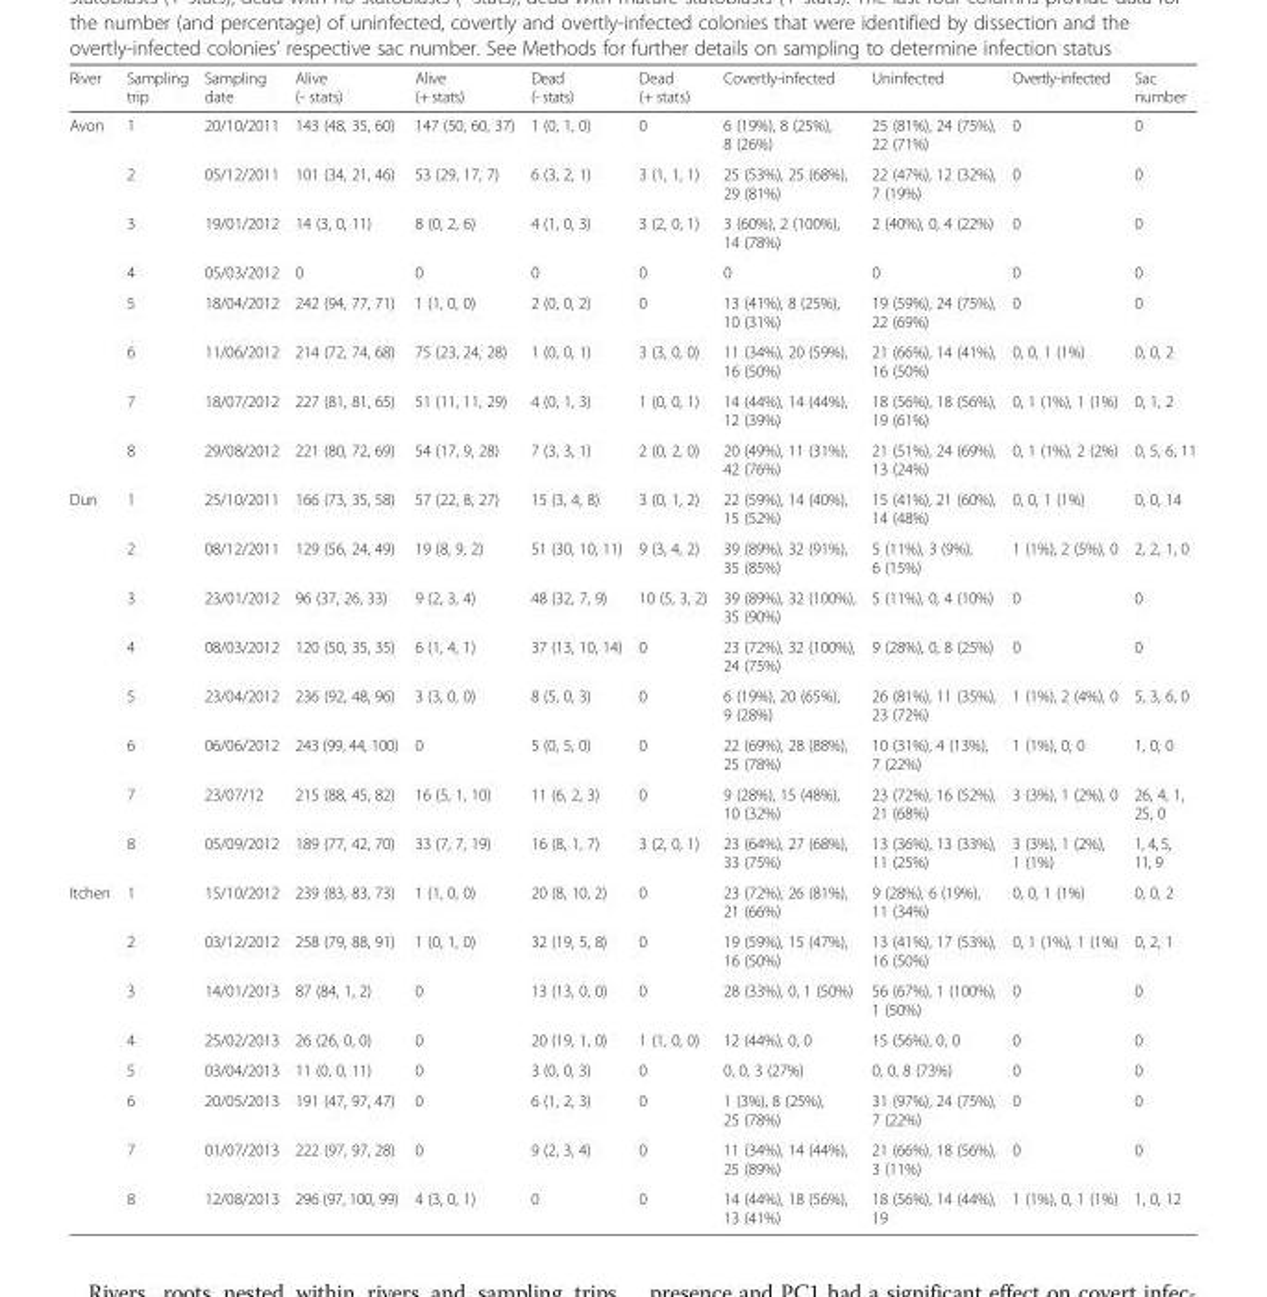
<table><thead><tr><td>River</td><td>Sampling trip</td><td>Sampling date</td><td>Alive (- stats)</td><td>Alive (+ stats)</td><td>Dead (- stats)</td><td>Dead (+ stats)</td><td>Covertly-infected</td><td>Uninfected</td><td>Overtly-infected</td><td>Sac number</td></tr></thead><tbody><tr><td rowspan="8">Avon</td><td>1</td><td>20/10/2011</td><td>143 (48, 35, 60)</td><td>147 (50, 60, 37)</td><td>1 (0, 1, 0)</td><td>0</td><td>6 (19%), 8 (25%), 8 (26%)</td><td>25 (81%), 24 (75%), 22 (71%)</td><td>0</td><td>0</td></tr><tr><td>2</td><td>05/12/2011</td><td>101 (34, 21, 46)</td><td>53 (29, 17, 7)</td><td>6 (3, 2, 1)</td><td>3 (1, 1, 1)</td><td>25 (53%), 25 (68%), 29 (81%)</td><td>22 (47%), 12 (32%), 7 (19%)</td><td>0</td><td>0</td></tr><tr><td>3</td><td>19/01/2012</td><td>14 (3, 0, 11)</td><td>8 (0, 2, 6)</td><td>4 (1, 0, 3)</td><td>3 (2, 0, 1)</td><td>3 (60%), 2 (100%), 14 (78%)</td><td>2 (40%), 0, 4 (22%)</td><td>0</td><td>0</td></tr><tr><td>4</td><td>05/03/2012</td><td>0</td><td>0</td><td>0</td><td>0</td><td>0</td><td>0</td><td>0</td><td>0</td></tr><tr><td>5</td><td>18/04/2012</td><td>242 (94, 77, 71)</td><td>1 (1, 0, 0)</td><td>2 (0, 0, 2)</td><td>0</td><td>13 (41%), 8 (25%), 10 (31%)</td><td>19 (59%), 24 (75%), 22 (69%)</td><td>0</td><td>0</td></tr><tr><td>6</td><td>11/06/2012</td><td>214 (72, 74, 68)</td><td>75 (23, 24, 28)</td><td>1 (0, 0, 1)</td><td>3 (3, 0, 0)</td><td>11 (34%), 20 (59%), 16 (50%)</td><td>21 (66%), 14 (41%), 16 (50%)</td><td>0, 0, 1 (1%)</td><td>0, 0, 2</td></tr><tr><td>7</td><td>18/07/2012</td><td>227 (81, 81, 65)</td><td>51 (11, 11, 29)</td><td>4 (0, 1, 3)</td><td>1 (0, 0, 1)</td><td>14 (44%), 14 (44%), 12 (39%)</td><td>18 (56%), 18 (56%), 19 (61%)</td><td>0, 1 (1%), 1 (1%)</td><td>0, 1, 2</td></tr><tr><td>8</td><td>29/08/2012</td><td>221 (80, 72, 69)</td><td>54 (17, 9, 28)</td><td>7 (3, 3, 1)</td><td>2 (0, 2, 0)</td><td>20 (49%), 11 (31%), 42 (76%)</td><td>21 (51%), 24 (69%), 13 (24%)</td><td>0, 1 (1%), 2 (2%)</td><td>0, 5, 6, 11</td></tr><tr><td rowspan="8">Dun</td><td>1</td><td>25/10/2011</td><td>166 (73, 35, 58)</td><td>57 (22, 8, 27)</td><td>15 (3, 4, 8)</td><td>3 (0, 1, 2)</td><td>22 (59%), 14 (40%), 15 (52%)</td><td>15 (41%), 21 (60%), 14 (48%)</td><td>0, 0, 1 (1%)</td><td>0, 0, 14</td></tr><tr><td>2</td><td>08/12/2011</td><td>129 (56, 24, 49)</td><td>19 (8, 9, 2)</td><td>51 (30, 10, 11)</td><td>9 (3, 4, 2)</td><td>39 (89%), 32 (91%), 35 (85%)</td><td>5 (11%), 3 (9%), 6 (15%)</td><td>1 (1%), 2 (5%), 0</td><td>2, 2, 1, 0</td></tr><tr><td>3</td><td>23/01/2012</td><td>96 (37, 26, 33)</td><td>9 (2, 3, 4)</td><td>48 (32, 7, 9)</td><td>10 (5, 3, 2)</td><td>39 (89%), 32 (100%), 35 (90%)</td><td>5 (11%), 0, 4 (10%)</td><td>0</td><td>0</td></tr><tr><td>4</td><td>08/03/2012</td><td>120 (50, 35, 35)</td><td>6 (1, 4, 1)</td><td>37 (13, 10, 14)</td><td>0</td><td>23 (72%), 32 (100%), 24 (75%)</td><td>9 (28%), 0, 8 (25%)</td><td>0</td><td>0</td></tr><tr><td>5</td><td>23/04/2012</td><td>236 (92, 48, 96)</td><td>3 (3, 0, 0)</td><td>8 (5, 0, 3)</td><td>0</td><td>6 (19%), 20 (65%), 9 (28%)</td><td>26 (81%), 11 (35%), 23 (72%)</td><td>1 (1%), 2 (4%), 0</td><td>5, 3, 6, 0</td></tr><tr><td>6</td><td>06/06/2012</td><td>243 (99, 44, 100)</td><td>0</td><td>5 (0, 5, 0)</td><td>0</td><td>22 (69%), 28 (88%), 25 (78%)</td><td>10 (31%), 4 (13%), 7 (22%)</td><td>1 (1%), 0, 0</td><td>1, 0, 0</td></tr><tr><td>7</td><td>23/07/12</td><td>215 (88, 45, 82)</td><td>16 (5, 1, 10)</td><td>11 (6, 2, 3)</td><td>0</td><td>9 (28%), 15 (48%), 10 (32%)</td><td>23 (72%), 16 (52%), 21 (68%)</td><td>3 (3%), 1 (2%), 0</td><td>26, 4, 1, 25, 0</td></tr><tr><td>8</td><td>05/09/2012</td><td>189 (77, 42, 70)</td><td>33 (7, 7, 19)</td><td>16 (8, 1, 7)</td><td>3 (2, 0, 1)</td><td>23 (64%), 27 (68%), 33 (75%)</td><td>13 (36%), 13 (33%), 11 (25%)</td><td>3 (3%), 1 (2%), 1 (1%)</td><td>1, 4, 5, 11, 9</td></tr><tr><td rowspan="8">Itchen</td><td>1</td><td>15/10/2012</td><td>239 (83, 83, 73)</td><td>1 (1, 0, 0)</td><td>20 (8, 10, 2)</td><td>0</td><td>23 (72%), 26 (81%), 21 (66%)</td><td>9 (28%), 6 (19%), 11 (34%)</td><td>0, 0, 1 (1%)</td><td>0, 0, 2</td></tr><tr><td>2</td><td>03/12/2012</td><td>258 (79, 88, 91)</td><td>1 (0, 1, 0)</td><td>32 (19, 5, 8)</td><td>0</td><td>19 (59%), 15 (47%), 16 (50%)</td><td>13 (41%), 17 (53%), 16 (50%)</td><td>0, 1 (1%), 1 (1%)</td><td>0, 2, 1</td></tr><tr><td>3</td><td>14/01/2013</td><td>87 (84, 1, 2)</td><td>0</td><td>13 (13, 0, 0)</td><td>0</td><td>28 (33%), 0, 1 (50%)</td><td>56 (67%), 1 (100%), 1 (50%)</td><td>0</td><td>0</td></tr><tr><td>4</td><td>25/02/2013</td><td>26 (26, 0, 0)</td><td>0</td><td>20 (19, 1, 0)</td><td>1 (1, 0, 0)</td><td>12 (44%), 0, 0</td><td>15 (56%), 0, 0</td><td>0</td><td>0</td></tr><tr><td>5</td><td>03/04/2013</td><td>11 (0, 0, 11)</td><td>0</td><td>3 (0, 0, 3)</td><td>0</td><td>0, 0, 3 (27%)</td><td>0, 0, 8 (73%)</td><td>0</td><td>0</td></tr><tr><td>6</td><td>20/05/2013</td><td>191 (47, 97, 47)</td><td>0</td><td>6 (1, 2, 3)</td><td>0</td><td>1 (3%), 8 (25%), 25 (78%)</td><td>31 (97%), 24 (75%), 7 (22%)</td><td>0</td><td>0</td></tr><tr><td>7</td><td>01/07/2013</td><td>222 (97, 97, 28)</td><td>0</td><td>9 (2, 3, 4)</td><td>0</td><td>11 (34%), 14 (44%), 25 (89%)</td><td>21 (66%), 18 (56%), 3 (11%)</td><td>0</td><td>0</td></tr><tr><td>8</td><td>12/08/2013</td><td>296 (97, 100, 99)</td><td>4 (3, 0, 1)</td><td>0</td><td>0</td><td>14 (44%), 18 (56%), 13 (41%)</td><td>18 (56%), 14 (44%), 19</td><td>1 (1%), 0, 1 (1%)</td><td>1, 0, 12</td></tr></tbody></table>